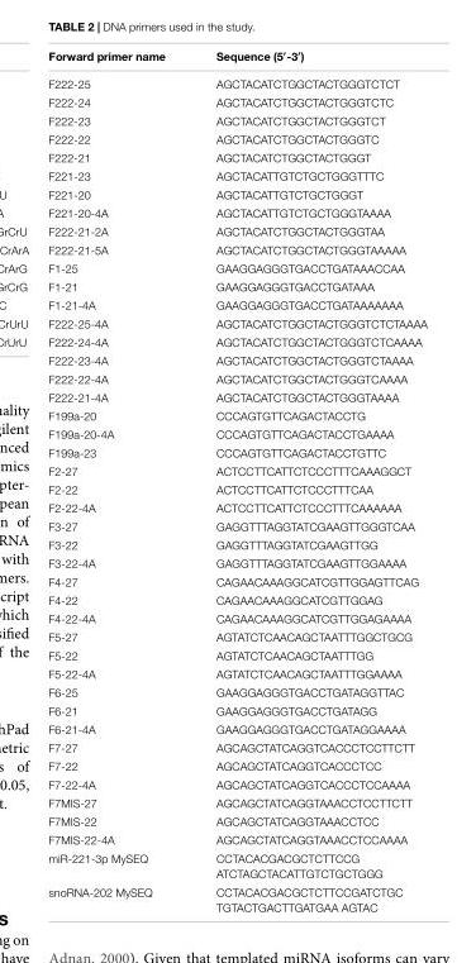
<table><thead><tr><td>Forward primer name</td><td>Sequence (5′-3′)</td></tr></thead><tbody><tr><td>F222-25</td><td>AGCTACATCTGGCTACTGGGTCTCT</td></tr><tr><td>F222-24</td><td>AGCTACATCTGGCTACTGGGTCTC</td></tr><tr><td>F222-23</td><td>AGCTACATCTGGCTACTGGGTCT</td></tr><tr><td>F222-22</td><td>AGCTACATCTGGCTACTGGGTC</td></tr><tr><td>F222-21</td><td>AGCTACATCTGGCTACTGGGT</td></tr><tr><td>F221-23</td><td>AGCTACATTGTCTGCTGGGTTTC</td></tr><tr><td>F221-20</td><td>AGCTACATTGTCTGCTGGGT</td></tr><tr><td>F221-20-4A</td><td>AGCTACATTGTCTGCTGGGTAAAA</td></tr><tr><td>F222-21-2A</td><td>AGCTACATCTGGCTACTGGGTAA</td></tr><tr><td>F222-21-5A</td><td>AGCTACATCTGGCTACTGGGTAAAAA</td></tr><tr><td>F1-25</td><td>GAAGGAGGGTGACCTGATAAACCAA</td></tr><tr><td>F1-21</td><td>GAAGGAGGGTGACCTGATAAA</td></tr><tr><td>F1-21-4A</td><td>GAAGGAGGGTGACCTGATAAAAAAA</td></tr><tr><td>F222-25-4A</td><td>AGCTACATCTGGCTACTGGGTCTCTAAAA</td></tr><tr><td>F222-24-4A</td><td>AGCTACATCTGGCTACTGGGTCTCAAAA</td></tr><tr><td>F222-23-4A</td><td>AGCTACATCTGGCTACTGGGTCTAAAA</td></tr><tr><td>F222-22-4A</td><td>AGCTACATCTGGCTACTGGGTCAAAA</td></tr><tr><td>F222-21-4A</td><td>AGCTACATCTGGCTACTGGGTAAAA</td></tr><tr><td>F199a-20</td><td>CCCAGTGTTCAGACTACCTG</td></tr><tr><td>F199a-20-4A</td><td>CCCAGTGTTCAGACTACCTGAAAA</td></tr><tr><td>F199a-23</td><td>CCCAGTGTTCAGACTACCTGTTC</td></tr><tr><td>F2-27</td><td>ACTCCTTCATTCTCCCTTTCAAAGGCT</td></tr><tr><td>F2-22</td><td>ACTCCTTCATTCTCCCTTTCAA</td></tr><tr><td>F2-22-4A</td><td>ACTCCTTCATTCTCCCTTTCAAAAAA</td></tr><tr><td>F3-27</td><td>GAGGTTTAGGTATCGAAGTTGGGTCAA</td></tr><tr><td>F3-22</td><td>GAGGTTTAGGTATCGAAGTTGG</td></tr><tr><td>F3-22-4A</td><td>GAGGTTTAGGTATCGAAGTTGGAAAA</td></tr><tr><td>F4-27</td><td>CAGAACAAAGGCATCGTTGGAGTTCAG</td></tr><tr><td>F4-22</td><td>CAGAACAAAGGCATCGTTGGAG</td></tr><tr><td>F4-22-4A</td><td>CAGAACAAAGGCATCGTTGGAGAAAA</td></tr><tr><td>F5-27</td><td>AGTATCTCAACAGCTAATTTGGCTGCG</td></tr><tr><td>F5-22</td><td>AGTATCTCAACAGCTAATTTGG</td></tr><tr><td>F5-22-4A</td><td>AGTATCTCAACAGCTAATTTGGAAAA</td></tr><tr><td>F6-25</td><td>GAAGGAGGGTGACCTGATAGGTTAC</td></tr><tr><td>F6-21</td><td>GAAGGAGGGTGACCTGATAGG</td></tr><tr><td>F6-21-4A</td><td>GAAGGAGGGTGACCTGATAGGAAAA</td></tr><tr><td>F7-27</td><td>AGCAGCTATCAGGTCACCCTCCTTCTT</td></tr><tr><td>F7-22</td><td>AGCAGCTATCAGGTCACCCTCC</td></tr><tr><td>F7-22-4A</td><td>AGCAGCTATCAGGTCACCCTCCAAAA</td></tr><tr><td>F7MIS-27</td><td>AGCAGCTATCAGGTAAACCTCCTTCTT</td></tr><tr><td>F7MIS-22</td><td>AGCAGCTATCAGGTAAACCTCC</td></tr><tr><td>F7MIS-22-4A</td><td>AGCAGCTATCAGGTAAACCTCCAAAA</td></tr><tr><td>miR-221-3p MySEQ</td><td>CCTACACGACGCTCTTCCG ATCTAGCTACATTGTCTGCTGGG</td></tr><tr><td>snoRNA-202 MySEQ</td><td>CCTACACGACGCTCTTCCGATCTGC TGTACTGACTTGATGAA AGTAC</td></tr></tbody></table>